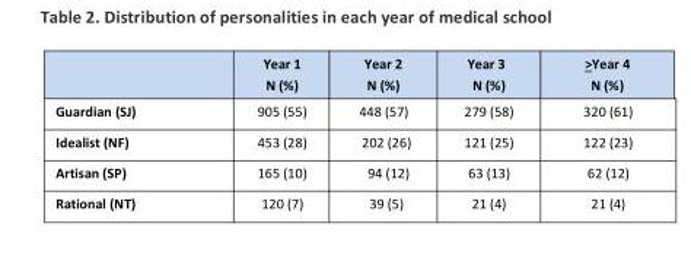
<table><thead><tr><td></td><td>Year 1 N (%)</td><td>Year 2 N (%)</td><td>Year 3 N (%)</td><td>&gt;Year 4 N (%)</td></tr></thead><tbody><tr><td>Guardian (SJ)</td><td>905 (55)</td><td>448 (57)</td><td>279 (58)</td><td>320 (61)</td></tr><tr><td>Idealist (NF)</td><td>453 (28)</td><td>202 (26)</td><td>121 (25)</td><td>122 (23)</td></tr><tr><td>Artisan (SP)</td><td>165 (10)</td><td>94 (12)</td><td>63 (13)</td><td>62 (12)</td></tr><tr><td>Rational (NT)</td><td>120 (7)</td><td>39 (5)</td><td>21 (4)</td><td>21 (4)</td></tr></tbody></table>